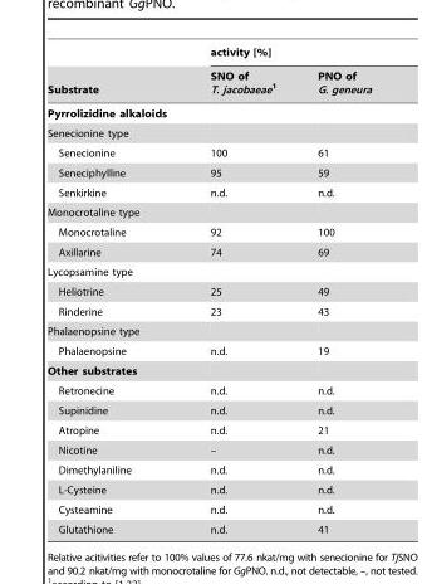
<table><thead><tr><td rowspan="2">Substrate</td><td colspan="2">activity [%]</td></tr><tr><td>SNO of T. jacobaeae1</td><td>PNO of G. geneura</td></tr></thead><tbody><tr><td colspan="3">Pyrrolizidine alkaloids</td></tr><tr><td colspan="3">Senecionine type</td></tr><tr><td>Senecionine</td><td>100</td><td>61</td></tr><tr><td>Seneciphylline</td><td>95</td><td>59</td></tr><tr><td>Senkirkine</td><td>n.d.</td><td>n.d.</td></tr><tr><td colspan="3">Monocrotaline type</td></tr><tr><td>Monocrotaline</td><td>92</td><td>100</td></tr><tr><td>Axillarine</td><td>74</td><td>69</td></tr><tr><td colspan="3">Lycopsamine type</td></tr><tr><td>Heliotrine</td><td>25</td><td>49</td></tr><tr><td>Rinderine</td><td>23</td><td>43</td></tr><tr><td colspan="3">Phalaenopsine type</td></tr><tr><td>Phalaenopsine</td><td>n.d.</td><td>19</td></tr><tr><td colspan="3">Other substrates</td></tr><tr><td>Retronecine</td><td>n.d.</td><td>n.d.</td></tr><tr><td>Supinidine</td><td>n.d.</td><td>n.d.</td></tr><tr><td>Atropine</td><td>n.d.</td><td>21</td></tr><tr><td>Nicotine</td><td>–</td><td>n.d.</td></tr><tr><td>Dimethylaniline</td><td>n.d.</td><td>n.d.</td></tr><tr><td>L-Cysteine</td><td>n.d.</td><td>n.d.</td></tr><tr><td>Cysteamine</td><td>n.d.</td><td>n.d.</td></tr><tr><td>Glutathione</td><td>n.d.</td><td>41</td></tr></tbody></table>